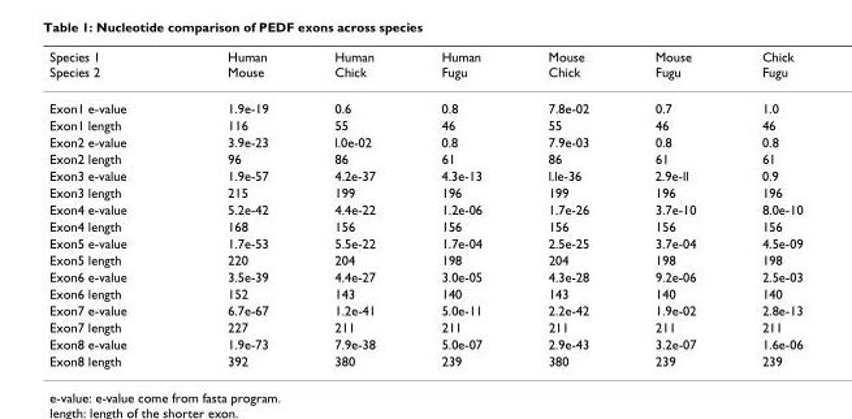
<table><thead><tr><td>Species 1 Species 2</td><td>Human Mouse</td><td>Human Chick</td><td>Human Fugu</td><td>Mouse Chick</td><td>Mouse Fugu</td><td>Chick Fugu</td></tr></thead><tbody><tr><td>Exon1 e-value</td><td>1.9e-19</td><td>0.6</td><td>0.8</td><td>7.8e-02</td><td>0.7</td><td>1.0</td></tr><tr><td>Exon1 length</td><td>116</td><td>55</td><td>46</td><td>55</td><td>46</td><td>46</td></tr><tr><td>Exon2 e-value</td><td>3.9e-23</td><td>l.0e-02</td><td>0.8</td><td>7.9e-03</td><td>0.8</td><td>0.8</td></tr><tr><td>Exon2 length</td><td>96</td><td>86</td><td>61</td><td>86</td><td>61</td><td>61</td></tr><tr><td>Exon3 e-value</td><td>1.9e-57</td><td>4.2e-37</td><td>4.3e-13</td><td>l.le-36</td><td>2.9e-ll</td><td>0.9</td></tr><tr><td>Exon3 length</td><td>215</td><td>199</td><td>196</td><td>199</td><td>196</td><td>196</td></tr><tr><td>Exon4 e-value</td><td>5.2e-42</td><td>4.4e-22</td><td>1.2e-06</td><td>1.7e-26</td><td>3.7e-10</td><td>8.0e-10</td></tr><tr><td>Exon4 length</td><td>168</td><td>156</td><td>156</td><td>156</td><td>156</td><td>156</td></tr><tr><td>Exon5 e-value</td><td>1.7e-53</td><td>5.5e-22</td><td>1.7e-04</td><td>2.5e-25</td><td>3.7e-04</td><td>4.5e-09</td></tr><tr><td>Exon5 length</td><td>220</td><td>204</td><td>198</td><td>204</td><td>198</td><td>198</td></tr><tr><td>Exon6 e-value</td><td>3.5e-39</td><td>4.4e-27</td><td>3.0e-05</td><td>4.3e-28</td><td>9.2e-06</td><td>2.5e-03</td></tr><tr><td>Exon6 length</td><td>152</td><td>143</td><td>140</td><td>143</td><td>140</td><td>140</td></tr><tr><td>Exon7 e-value</td><td>6.7e-67</td><td>1.2e-41</td><td>5.0e-11</td><td>2.2e-42</td><td>1.9e-02</td><td>2.8e-13</td></tr><tr><td>Exon7 length</td><td>227</td><td>211</td><td>211</td><td>211</td><td>211</td><td>211</td></tr><tr><td>Exon8 e-value</td><td>1.9e-73</td><td>7.9e-38</td><td>5.0e-07</td><td>2.9e-43</td><td>3.2e-07</td><td>1.6e-06</td></tr><tr><td>Exon8 length</td><td>392</td><td>380</td><td>239</td><td>380</td><td>239</td><td>239</td></tr></tbody></table>